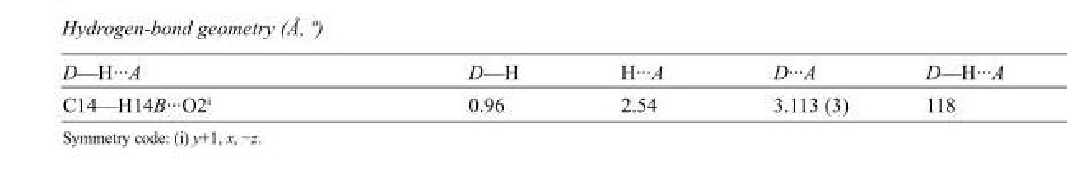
<table><tbody><tr><td>D—H···A</td><td>D—H</td><td>H···A</td><td>D···A</td><td>D—H···A</td></tr><tr><td>C14—H14B···O2<sup>i</sup></td><td>0.96</td><td>2.54</td><td>3.113 (3)</td><td>118</td></tr></tbody></table>